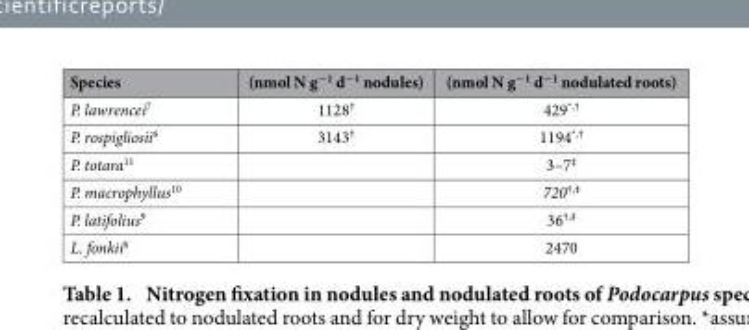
<table><thead><tr><td>Species</td><td>(nmol N g<sup>−1</sup> d<sup>−1</sup> nodules)</td><td>(nmol N g<sup>−1</sup> d<sup>−1</sup> nodulated roots)</td></tr></thead><tbody><tr><td>P. lawrencei<sup>7</sup></td><td>1128<sup>†</sup></td><td>429<sup>*,†</sup></td></tr><tr><td>P. rospigliosii<sup>6</sup></td><td>3143<sup>†</sup></td><td>1194<sup>*,†</sup></td></tr><tr><td>P. totara<sup>11</sup></td><td></td><td>3–7<sup>‡</sup></td></tr><tr><td>P. macrophyllus<sup>10</sup></td><td></td><td>720<sup>†,‡</sup></td></tr><tr><td>P. latifolius<sup>9</sup></td><td></td><td>36<sup>†,‡</sup></td></tr><tr><td>L. fonkii<sup>§</sup></td><td></td><td>2470</td></tr></tbody></table>